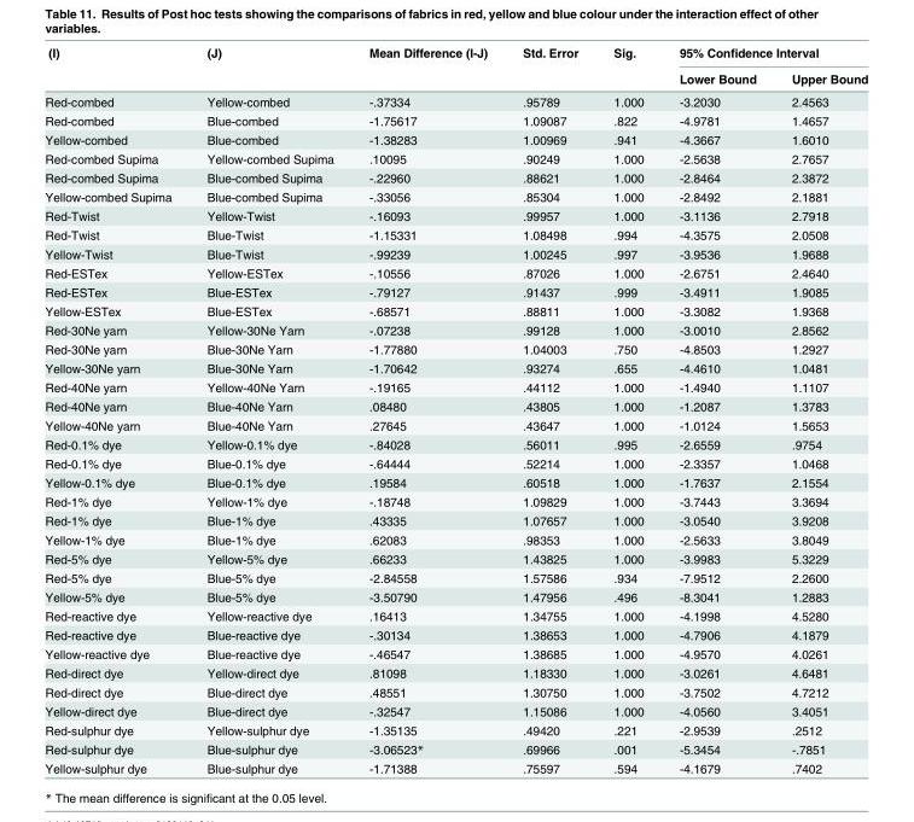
<table><thead><tr><td rowspan="2">(I)</td><td rowspan="2">(J)</td><td rowspan="2">Mean Difference (I-J)</td><td rowspan="2">Std. Error</td><td rowspan="2">Sig.</td><td colspan="2">95% Confidence Interval</td></tr><tr><td>Lower Bound</td><td>Upper Bound</td></tr></thead><tbody><tr><td>Red-combed</td><td>Yellow-combed</td><td>-.37334</td><td>.95789</td><td>1.000</td><td>-3.2030</td><td>2.4563</td></tr><tr><td>Red-combed</td><td>Blue-combed</td><td>-1.75617</td><td>1.09087</td><td>.822</td><td>-4.9781</td><td>1.4657</td></tr><tr><td>Yellow-combed</td><td>Blue-combed</td><td>-1.38283</td><td>1.00969</td><td>.941</td><td>-4.3667</td><td>1.6010</td></tr><tr><td>Red-combed Supima</td><td>Yellow-combed Supima</td><td>.10095</td><td>.90249</td><td>1.000</td><td>-2.5638</td><td>2.7657</td></tr><tr><td>Red-combed Supima</td><td>Blue-combed Supima</td><td>-.22960</td><td>.88621</td><td>1.000</td><td>-2.8464</td><td>2.3872</td></tr><tr><td>Yellow-combed Supima</td><td>Blue-combed Supima</td><td>-.33056</td><td>.85304</td><td>1.000</td><td>-2.8492</td><td>2.1881</td></tr><tr><td>Red-Twist</td><td>Yellow-Twist</td><td>-.16093</td><td>.99957</td><td>1.000</td><td>-3.1136</td><td>2.7918</td></tr><tr><td>Red-Twist</td><td>Blue-Twist</td><td>-1.15331</td><td>1.08498</td><td>.994</td><td>-4.3575</td><td>2.0508</td></tr><tr><td>Yellow-Twist</td><td>Blue-Twist</td><td>-.99239</td><td>1.00245</td><td>.997</td><td>-3.9536</td><td>1.9688</td></tr><tr><td>Red-ESTex</td><td>Yellow-ESTex</td><td>-.10556</td><td>.87026</td><td>1.000</td><td>-2.6751</td><td>2.4640</td></tr><tr><td>Red-ESTex</td><td>Blue-ESTex</td><td>-.79127</td><td>.91437</td><td>.999</td><td>-3.4911</td><td>1.9085</td></tr><tr><td>Yellow-ESTex</td><td>Blue-ESTex</td><td>-.68571</td><td>.88811</td><td>1.000</td><td>-3.3082</td><td>1.9368</td></tr><tr><td>Red-30Ne yarn</td><td>Yellow-30Ne Yarn</td><td>-.07238</td><td>.99128</td><td>1.000</td><td>-3.0010</td><td>2.8562</td></tr><tr><td>Red-30Ne yarn</td><td>Blue-30Ne Yarn</td><td>-1.77880</td><td>1.04003</td><td>.750</td><td>-4.8503</td><td>1.2927</td></tr><tr><td>Yellow-30Ne yarn</td><td>Blue-30Ne Yarn</td><td>-1.70642</td><td>.93274</td><td>.655</td><td>-4.4610</td><td>1.0481</td></tr><tr><td>Red-40Ne yarn</td><td>Yellow-40Ne Yarn</td><td>-.19165</td><td>.44112</td><td>1.000</td><td>-1.4940</td><td>1.1107</td></tr><tr><td>Red-40Ne yarn</td><td>Blue-40Ne Yarn</td><td>.08480</td><td>.43805</td><td>1.000</td><td>-1.2087</td><td>1.3783</td></tr><tr><td>Yellow-40Ne yarn</td><td>Blue-40Ne Yarn</td><td>.27645</td><td>.43647</td><td>1.000</td><td>-1.0124</td><td>1.5653</td></tr><tr><td>Red-0.1% dye</td><td>Yellow-0.1% dye</td><td>-.84028</td><td>.56011</td><td>.995</td><td>-2.6559</td><td>.9754</td></tr><tr><td>Red-0.1% dye</td><td>Blue-0.1% dye</td><td>-.64444</td><td>.52214</td><td>1.000</td><td>-2.3357</td><td>1.0468</td></tr><tr><td>Yellow-0.1% dye</td><td>Blue-0.1% dye</td><td>.19584</td><td>.60518</td><td>1.000</td><td>-1.7637</td><td>2.1554</td></tr><tr><td>Red-1% dye</td><td>Yellow-1% dye</td><td>-.18748</td><td>1.09829</td><td>1.000</td><td>-3.7443</td><td>3.3694</td></tr><tr><td>Red-1% dye</td><td>Blue-1% dye</td><td>.43335</td><td>1.07657</td><td>1.000</td><td>-3.0540</td><td>3.9208</td></tr><tr><td>Yellow-1% dye</td><td>Blue-1% dye</td><td>.62083</td><td>.98353</td><td>1.000</td><td>-2.5633</td><td>3.8049</td></tr><tr><td>Red-5% dye</td><td>Yellow-5% dye</td><td>.66233</td><td>1.43825</td><td>1.000</td><td>-3.9983</td><td>5.3229</td></tr><tr><td>Red-5% dye</td><td>Blue-5% dye</td><td>-2.84558</td><td>1.57586</td><td>.934</td><td>-7.9512</td><td>2.2600</td></tr><tr><td>Yellow-5% dye</td><td>Blue-5% dye</td><td>-3.50790</td><td>1.47956</td><td>.496</td><td>-8.3041</td><td>1.2883</td></tr><tr><td>Red-reactive dye</td><td>Yellow-reactive dye</td><td>.16413</td><td>1.34755</td><td>1.000</td><td>-4.1998</td><td>4.5280</td></tr><tr><td>Red-reactive dye</td><td>Blue-reactive dye</td><td>-.30134</td><td>1.38653</td><td>1.000</td><td>-4.7906</td><td>4.1879</td></tr><tr><td>Yellow-reactive dye</td><td>Blue-reactive dye</td><td>-.46547</td><td>1.38685</td><td>1.000</td><td>-4.9570</td><td>4.0261</td></tr><tr><td>Red-direct dye</td><td>Yellow-direct dye</td><td>.81098</td><td>1.18330</td><td>1.000</td><td>-3.0261</td><td>4.6481</td></tr><tr><td>Red-direct dye</td><td>Blue-direct dye</td><td>.48551</td><td>1.30750</td><td>1.000</td><td>-3.7502</td><td>4.7212</td></tr><tr><td>Yellow-direct dye</td><td>Blue-direct dye</td><td>-.32547</td><td>1.15086</td><td>1.000</td><td>-4.0560</td><td>3.4051</td></tr><tr><td>Red-sulphur dye</td><td>Yellow-sulphur dye</td><td>-1.35135</td><td>.49420</td><td>.221</td><td>-2.9539</td><td>.2512</td></tr><tr><td>Red-sulphur dye</td><td>Blue-sulphur dye</td><td>-3.06523*</td><td>.69966</td><td>.001</td><td>-5.3454</td><td>-.7851</td></tr><tr><td>Yellow-sulphur dye</td><td>Blue-sulphur dye</td><td>-1.71388</td><td>.75597</td><td>.594</td><td>-4.1679</td><td>.7402</td></tr></tbody></table>